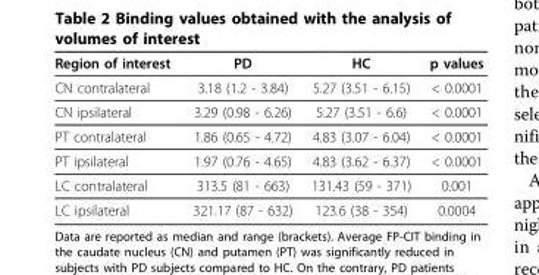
<table><thead><tr><td>Region of interest</td><td>PD</td><td>HC</td><td>p values</td></tr></thead><tbody><tr><td>CN contralateral</td><td>3.18 (1.2 - 3.84)</td><td>5.27 (3.51 - 6.15)</td><td>&lt; 0.0001</td></tr><tr><td>CN ipsilateral</td><td>3.29 (0.98 - 6.26)</td><td>5.27 (3.51 - 6.6)</td><td>&lt; 0.0001</td></tr><tr><td>PT contralateral</td><td>1.86 (0.65 - 4.72)</td><td>4.83 (3.07 - 6.04)</td><td>&lt; 0.0001</td></tr><tr><td>PT ipsilateral</td><td>1.97 (0.76 - 4.65)</td><td>4.83 (3.62 - 6.37)</td><td>&lt; 0.0001</td></tr><tr><td>LC contralateral</td><td>313.5 (81 - 663)</td><td>131.43 (59 - 371)</td><td>0.001</td></tr><tr><td>LC ipsilateral</td><td>321.17 (87 - 632)</td><td>123.6 (38 - 354)</td><td>0.0004</td></tr></tbody></table>